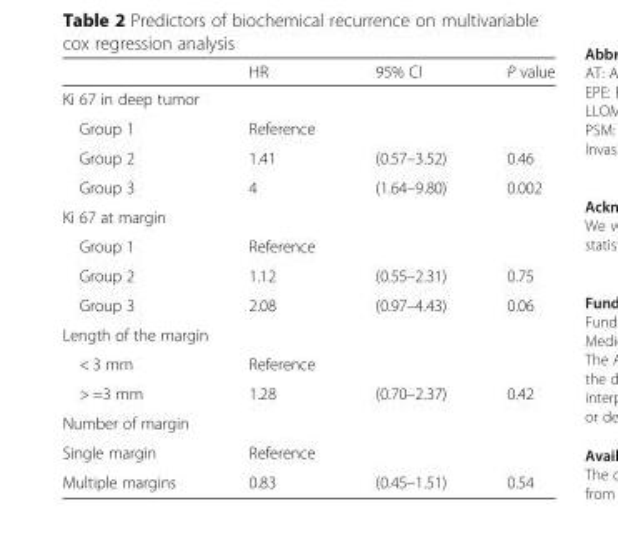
<table><thead><tr><td></td><td>HR</td><td>95% CI</td><td>P value</td></tr></thead><tbody><tr><td colspan="4">Ki 67 in deep tumor</td></tr><tr><td>Group 1</td><td>Reference</td><td></td><td></td></tr><tr><td>Group 2</td><td>1.41</td><td>(0.57–3.52)</td><td>0.46</td></tr><tr><td>Group 3</td><td>4</td><td>(1.64–9.80)</td><td>0.002</td></tr><tr><td colspan="4">Ki 67 at margin</td></tr><tr><td>Group 1</td><td colspan="3">Reference</td></tr><tr><td>Group 2</td><td>1.12</td><td>(0.55–2.31)</td><td>0.75</td></tr><tr><td>Group 3</td><td>2.08</td><td>(0.97–4.43)</td><td>0.06</td></tr><tr><td colspan="4">Length of the margin</td></tr><tr><td>&lt; 3 mm</td><td colspan="3">Reference</td></tr><tr><td>&gt; =3 mm</td><td>1.28</td><td>(0.70–2.37)</td><td>0.42</td></tr><tr><td colspan="4">Number of margin</td></tr><tr><td>Single margin</td><td colspan="3">Reference</td></tr><tr><td>Multiple margins</td><td>0.83</td><td>(0.45–1.51)</td><td>0.54</td></tr></tbody></table>